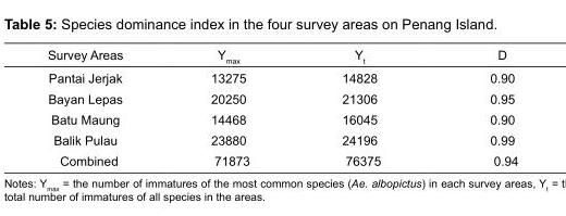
<table><thead><tr><td>Survey Areas</td><td>Y<sub>max</sub></td><td>Y<sup>t</sup></td><td>D</td></tr></thead><tbody><tr><td>Pantai Jerjak</td><td>13275</td><td>14828</td><td>0.90</td></tr><tr><td>Bayan Lepas</td><td>20250</td><td>21306</td><td>0.95</td></tr><tr><td>Batu Maung</td><td>14468</td><td>16045</td><td>0.90</td></tr><tr><td>Balik Pulau</td><td>23880</td><td>24196</td><td>0.99</td></tr><tr><td>Combined</td><td>71873</td><td>76375</td><td>0.94</td></tr></tbody></table>